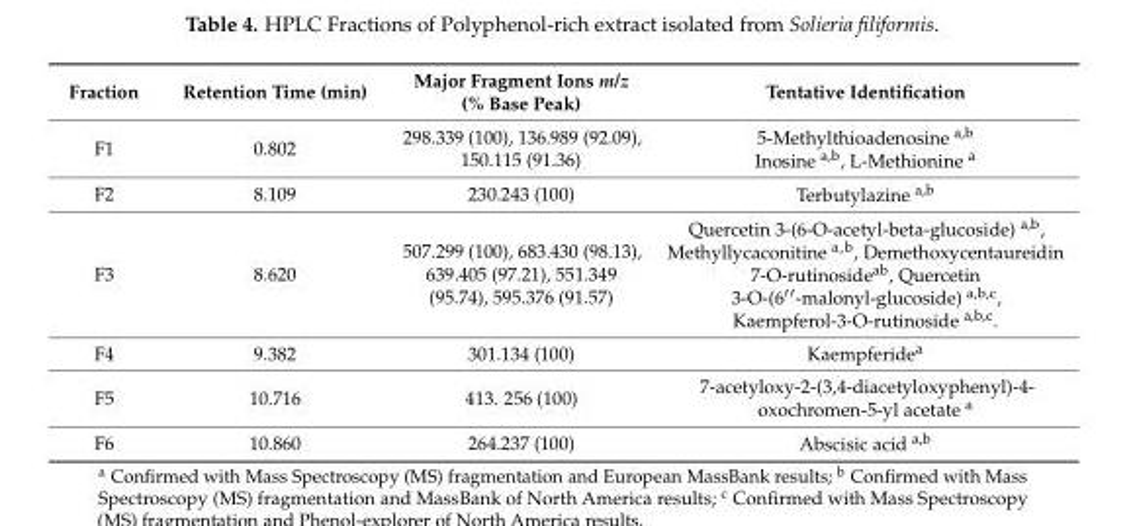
<table><thead><tr><td>Fraction</td><td>Retention Time (min)</td><td>Major Fragment Ions m/z (% Base Peak)</td><td>Tentative Identification</td></tr></thead><tbody><tr><td>F1</td><td>0.802</td><td>298.339 (100), 136.989 (92.09), 150.115 (91.36)</td><td>5-Methylthioadenosine <sup>a,b</sup> Inosine <sup>a,b</sup>, L-Methionine <sup>a</sup></td></tr><tr><td>F2</td><td>8.109</td><td>230.243 (100)</td><td>Terbutylazine <sup>a,b</sup></td></tr><tr><td>F3</td><td>8.620</td><td>507.299 (100), 683.430 (98.13), 639.405 (97.21), 551.349 (95.74), 595.376 (91.57)</td><td>Quercetin 3-(6-O-acetyl-beta-glucoside) <sup>a,b</sup>, Methyllycaconitine <sup>a,b</sup>, Demethoxycentaureidin 7-O-rutinoside<sup>ab</sup>, Quercetin 3-O-(6′′-malonyl-glucoside) <sup>a,b,c</sup>, Kaempferol-3-O-rutinoside <sup>a,b,c</sup>.</td></tr><tr><td>F4</td><td>9.382</td><td>301.134 (100)</td><td>Kaempferide<sup>a</sup></td></tr><tr><td>F5</td><td>10.716</td><td>413. 256 (100)</td><td>7-acetyloxy-2-(3,4-diacetyloxyphenyl)-4- oxochromen-5-yl acetate <sup>a</sup></td></tr><tr><td>F6</td><td>10.860</td><td>264.237 (100)</td><td>Abscisic acid <sup>a,b</sup></td></tr></tbody></table>